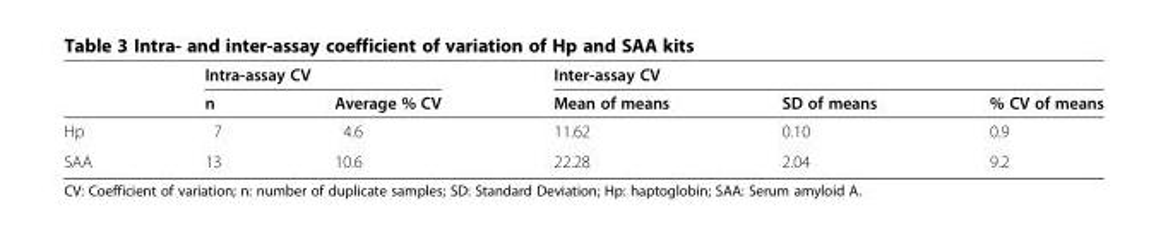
<table><thead><tr><td rowspan="2"></td><td colspan="2">Intra-assay CV</td><td colspan="3">Inter-assay CV</td></tr><tr><td>n</td><td>Average % CV</td><td>Mean of means</td><td>SD of means</td><td>% CV of means</td></tr></thead><tbody><tr><td>Hp</td><td>7</td><td>4.6</td><td>11.62</td><td>0.10</td><td>0.9</td></tr><tr><td>SAA</td><td>13</td><td>10.6</td><td>22.28</td><td>2.04</td><td>9.2</td></tr></tbody></table>